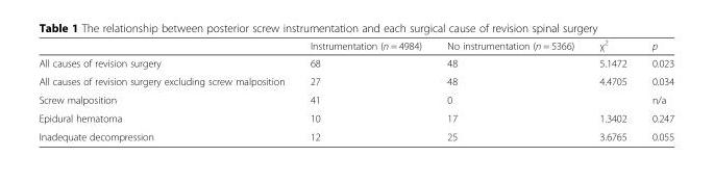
<table><thead><tr><td></td><td>Instrumentation (n = 4984)</td><td>No instrumentation (n = 5366)</td><td>χ<sup>2</sup></td><td>p</td></tr></thead><tbody><tr><td>All causes of revision surgery</td><td>68</td><td>48</td><td>5.1472</td><td>0.023</td></tr><tr><td>All causes of revision surgery excluding screw malposition</td><td>27</td><td>48</td><td>4.4705</td><td>0.034</td></tr><tr><td>Screw malposition</td><td>41</td><td>0</td><td></td><td>n/a</td></tr><tr><td>Epidural hematoma</td><td>10</td><td>17</td><td>1.3402</td><td>0.247</td></tr><tr><td>Inadequate decompression</td><td>12</td><td>25</td><td>3.6765</td><td>0.055</td></tr></tbody></table>